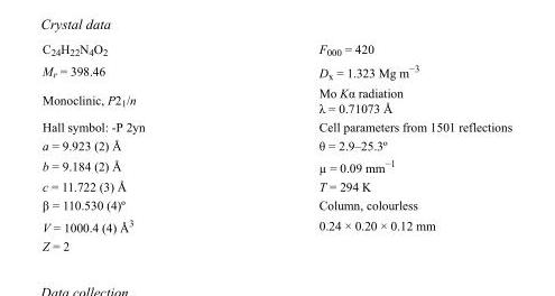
<table><tbody><tr><td>C<sub>24</sub>H<sub>22</sub>N<sub>4</sub>O<sub>2</sub></td><td>F000 = 420</td></tr><tr><td>M<sub>r</sub> = 398.46</td><td>D<sub>x</sub> = 1.323 Mg m<sup>−3</sup></td></tr><tr><td>Monoclinic, P2<sub>1</sub>/n</td><td>Mo Kα radiation λ = 0.71073 Å</td></tr><tr><td>Hall symbol: -P 2yn</td><td>Cell parameters from 1501 reflections</td></tr><tr><td>a = 9.923 (2) Å</td><td>θ = 2.9–25.3º</td></tr><tr><td>b = 9.184 (2) Å</td><td>µ = 0.09 mm<sup>−1</sup></td></tr><tr><td>c = 11.722 (3) Å</td><td>T = 294 K</td></tr><tr><td>β = 110.530 (4)º</td><td>Column, colourless</td></tr><tr><td>V = 1000.4 (4) Å<sup>3</sup></td><td>0.24 × 0.20 × 0.12 mm</td></tr><tr><td>Z = 2</td><td></td></tr></tbody></table>